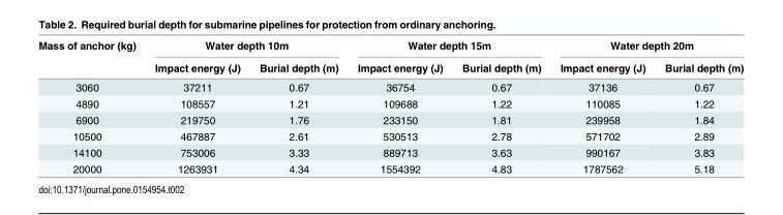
<table><thead><tr><td rowspan="2">Mass of anchor (kg)</td><td colspan="2">Water depth 10m</td><td colspan="2">Water depth 15m</td><td colspan="2">Water depth 20m</td></tr><tr><td>Impact energy (J)</td><td>Burial depth (m)</td><td>Impact energy (J)</td><td>Burial depth (m)</td><td>Impact energy (J)</td><td>Burial depth (m)</td></tr></thead><tbody><tr><td>3060</td><td>37211</td><td>0.67</td><td>36754</td><td>0.67</td><td>37136</td><td>0.67</td></tr><tr><td>4890</td><td>108557</td><td>1.21</td><td>109688</td><td>1.22</td><td>110085</td><td>1.22</td></tr><tr><td>6900</td><td>219750</td><td>1.76</td><td>233150</td><td>1.81</td><td>239958</td><td>1.84</td></tr><tr><td>10500</td><td>467887</td><td>2.61</td><td>530513</td><td>2.78</td><td>571702</td><td>2.89</td></tr><tr><td>14100</td><td>753006</td><td>3.33</td><td>889713</td><td>3.63</td><td>990167</td><td>3.83</td></tr><tr><td>20000</td><td>1263931</td><td>4.34</td><td>1554392</td><td>4.83</td><td>1787562</td><td>5.18</td></tr></tbody></table>